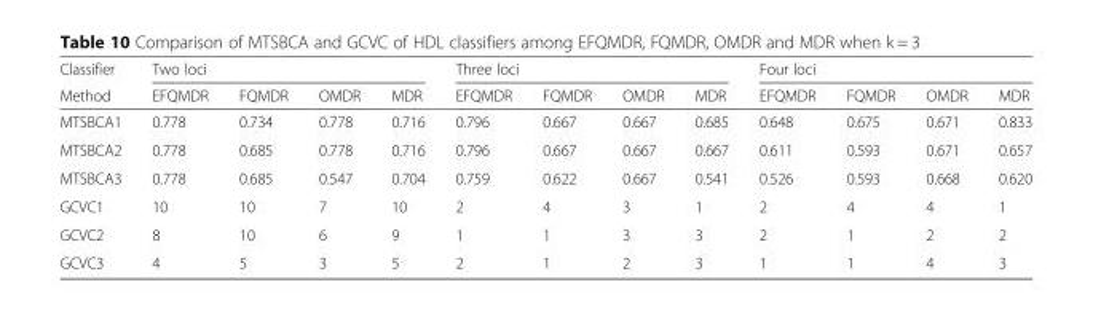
<table><thead><tr><td rowspan="2">Classifier Method</td><td colspan="4">Two loci</td><td colspan="4">Three loci</td><td colspan="4">Four loci</td></tr><tr><td>EFQMDR</td><td>FQMDR</td><td>OMDR</td><td>MDR</td><td>EFQMDR</td><td>FQMDR</td><td>OMDR</td><td>MDR</td><td>EFQMDR</td><td>FQMDR</td><td>OMDR</td><td>MDR</td></tr></thead><tbody><tr><td>MTSBCA1</td><td>0.778</td><td>0.734</td><td>0.778</td><td>0.716</td><td>0.796</td><td>0.667</td><td>0.667</td><td>0.685</td><td>0.648</td><td>0.675</td><td>0.671</td><td>0.833</td></tr><tr><td>MTSBCA2</td><td>0.778</td><td>0.685</td><td>0.778</td><td>0.716</td><td>0.796</td><td>0.667</td><td>0.667</td><td>0.667</td><td>0.611</td><td>0.593</td><td>0.671</td><td>0.657</td></tr><tr><td>MTSBCA3</td><td>0.778</td><td>0.685</td><td>0.547</td><td>0.704</td><td>0.759</td><td>0.622</td><td>0.667</td><td>0.541</td><td>0.526</td><td>0.593</td><td>0.668</td><td>0.620</td></tr><tr><td>GCVC1</td><td>10</td><td>10</td><td>7</td><td>10</td><td>2</td><td>4</td><td>3</td><td>1</td><td>2</td><td>4</td><td>4</td><td>1</td></tr><tr><td>GCVC2</td><td>8</td><td>10</td><td>6</td><td>9</td><td>1</td><td>1</td><td>3</td><td>3</td><td>2</td><td>1</td><td>2</td><td>2</td></tr><tr><td>GCVC3</td><td>4</td><td>5</td><td>3</td><td>5</td><td>2</td><td>1</td><td>2</td><td>3</td><td>1</td><td>1</td><td>4</td><td>3</td></tr></tbody></table>